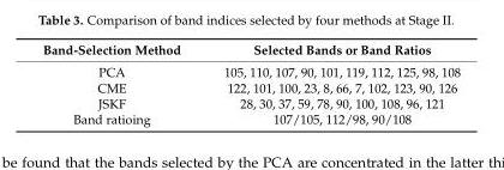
<table><thead><tr><td>Band-Selection Method</td><td>Selected Bands or Band Ratios</td></tr></thead><tbody><tr><td>PCA</td><td>105, 110, 107, 90, 101, 119, 112, 125, 98, 108</td></tr><tr><td>CME</td><td>122, 101, 100, 23, 8, 66, 7, 102, 123, 90, 126</td></tr><tr><td>JSKF</td><td>28, 30, 37, 59, 78, 90, 100, 108, 96, 121</td></tr><tr><td>Band ratioing</td><td>107/105, 112/98, 90/108</td></tr></tbody></table>